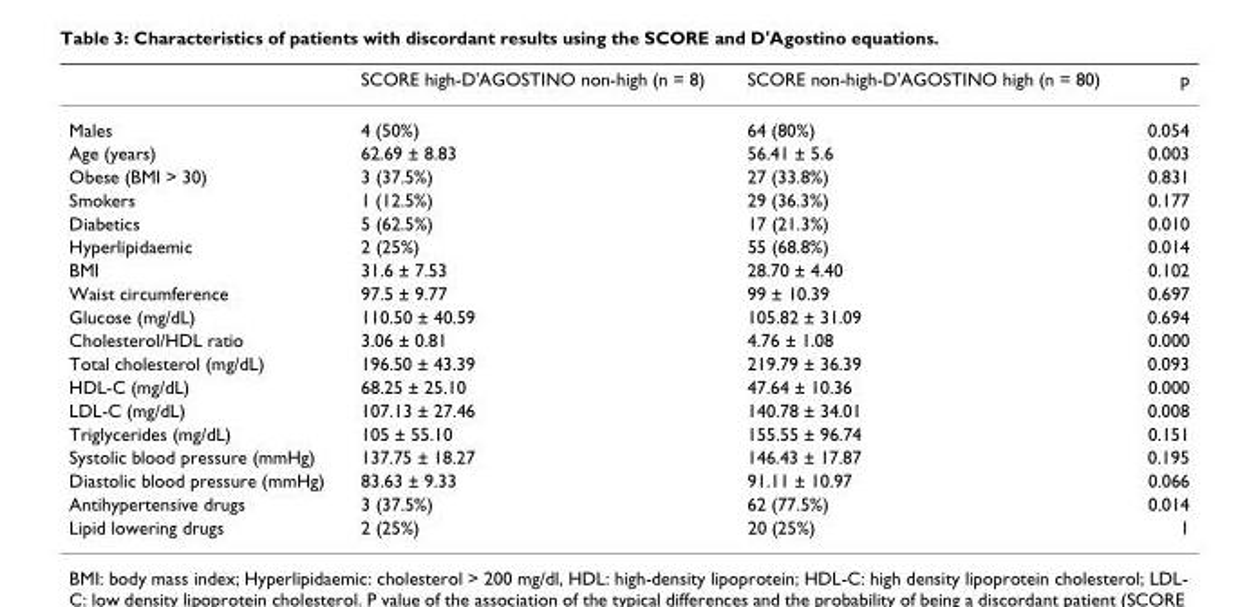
<table><thead><tr><td></td><td>SCORE high-D&#x27;AGOSTINO non-high (n = 8)</td><td>SCORE non-high-D&#x27;AGOSTINO high (n = 80)</td><td>p</td></tr></thead><tbody><tr><td>Males</td><td>4 (50%)</td><td>64 (80%)</td><td>0.054</td></tr><tr><td>Age (years)</td><td>62.69 ± 8.83</td><td>56.41 ± 5.6</td><td>0.003</td></tr><tr><td>Obese (BMI &gt; 30)</td><td>3 (37.5%)</td><td>27 (33.8%)</td><td>0.831</td></tr><tr><td>Smokers</td><td>1 (12.5%)</td><td>29 (36.3%)</td><td>0.177</td></tr><tr><td>Diabetics</td><td>5 (62.5%)</td><td>17 (21.3%)</td><td>0.010</td></tr><tr><td>Hyperlipidaemic</td><td>2 (25%)</td><td>55 (68.8%)</td><td>0.014</td></tr><tr><td>BMI</td><td>31.6 ± 7.53</td><td>28.70 ± 4.40</td><td>0.102</td></tr><tr><td>Waist circumference</td><td>97.5 ± 9.77</td><td>99 ± 10.39</td><td>0.697</td></tr><tr><td>Glucose (mg/dL)</td><td>110.50 ± 40.59</td><td>105.82 ± 31.09</td><td>0.694</td></tr><tr><td>Cholesterol/HDL ratio</td><td>3.06 ± 0.81</td><td>4.76 ± 1.08</td><td>0.000</td></tr><tr><td>Total cholesterol (mg/dL)</td><td>196.50 ± 43.39</td><td>219.79 ± 36.39</td><td>0.093</td></tr><tr><td>HDL-C (mg/dL)</td><td>68.25 ± 25.10</td><td>47.64 ± 10.36</td><td>0.000</td></tr><tr><td>LDL-C (mg/dL)</td><td>107.13 ± 27.46</td><td>140.78 ± 34.01</td><td>0.008</td></tr><tr><td>Triglycerides (mg/dL)</td><td>105 ± 55.10</td><td>155.55 ± 96.74</td><td>0.151</td></tr><tr><td>Systolic blood pressure (mmHg)</td><td>137.75 ± 18.27</td><td>146.43 ± 17.87</td><td>0.195</td></tr><tr><td>Diastolic blood pressure (mmHg)</td><td>83.63 ± 9.33</td><td>91.11 ± 10.97</td><td>0.066</td></tr><tr><td>Antihypertensive drugs</td><td>3 (37.5%)</td><td>62 (77.5%)</td><td>0.014</td></tr><tr><td>Lipid lowering drugs</td><td>2 (25%)</td><td>20 (25%)</td><td>1</td></tr></tbody></table>